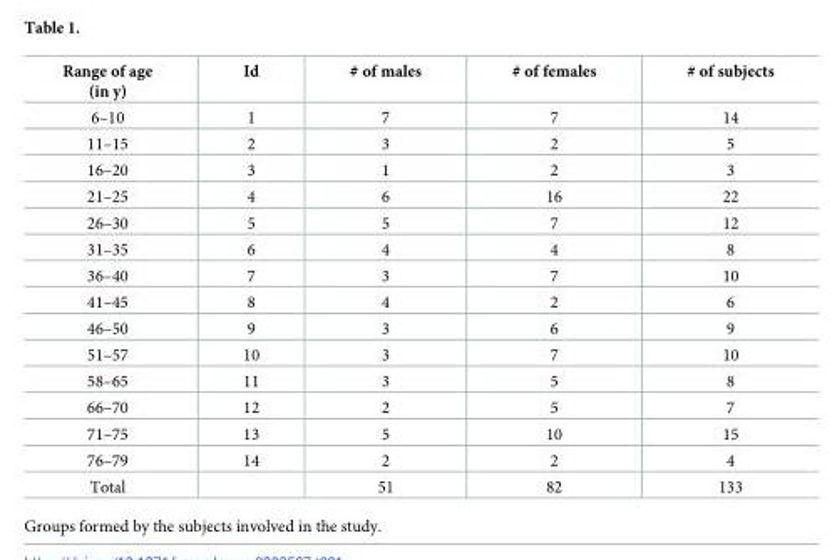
<table><thead><tr><td>Range of age (in y)</td><td>Id</td><td># of males</td><td># of females</td><td># of subjects</td></tr></thead><tbody><tr><td>6–10</td><td>1</td><td>7</td><td>7</td><td>14</td></tr><tr><td>11–15</td><td>2</td><td>3</td><td>2</td><td>5</td></tr><tr><td>16–20</td><td>3</td><td>1</td><td>2</td><td>3</td></tr><tr><td>21–25</td><td>4</td><td>6</td><td>16</td><td>22</td></tr><tr><td>26–30</td><td>5</td><td>5</td><td>7</td><td>12</td></tr><tr><td>31–35</td><td>6</td><td>4</td><td>4</td><td>8</td></tr><tr><td>36–40</td><td>7</td><td>3</td><td>7</td><td>10</td></tr><tr><td>41–45</td><td>8</td><td>4</td><td>2</td><td>6</td></tr><tr><td>46–50</td><td>9</td><td>3</td><td>6</td><td>9</td></tr><tr><td>51–57</td><td>10</td><td>3</td><td>7</td><td>10</td></tr><tr><td>58–65</td><td>11</td><td>3</td><td>5</td><td>8</td></tr><tr><td>66–70</td><td>12</td><td>2</td><td>5</td><td>7</td></tr><tr><td>71–75</td><td>13</td><td>5</td><td>10</td><td>15</td></tr><tr><td>76–79</td><td>14</td><td>2</td><td>2</td><td>4</td></tr><tr><td>Total</td><td></td><td>51</td><td>82</td><td>133</td></tr></tbody></table>